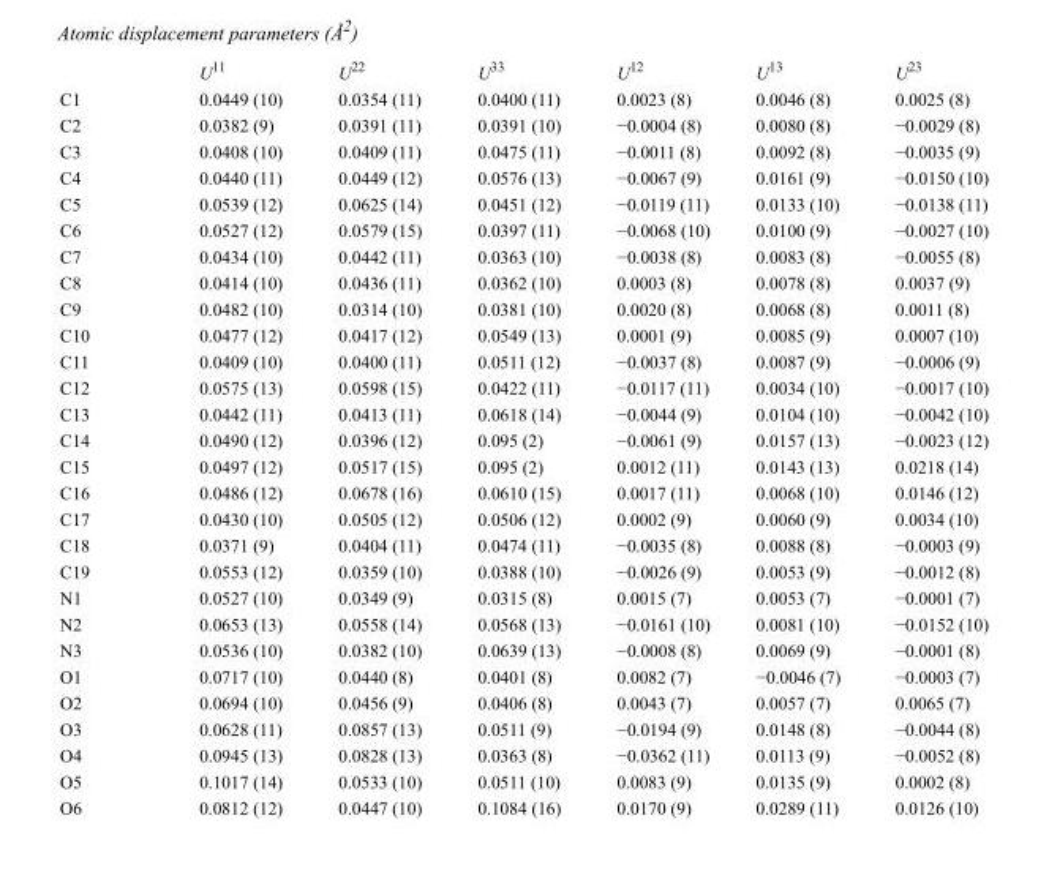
<table><thead><tr><td></td><td>U<sup>11</sup></td><td>U<sup>22</sup></td><td>U<sup>33</sup></td><td>U<sup>12</sup></td><td>U<sup>13</sup></td><td>U<sup>23</sup></td></tr></thead><tbody><tr><td>C1</td><td>0.0449 (10)</td><td>0.0354 (11)</td><td>0.0400 (11)</td><td>0.0023 (8)</td><td>0.0046 (8)</td><td>0.0025 (8)</td></tr><tr><td>C2</td><td>0.0382 (9)</td><td>0.0391 (11)</td><td>0.0391 (10)</td><td>−0.0004 (8)</td><td>0.0080 (8)</td><td>−0.0029 (8)</td></tr><tr><td>C3</td><td>0.0408 (10)</td><td>0.0409 (11)</td><td>0.0475 (11)</td><td>−0.0011 (8)</td><td>0.0092 (8)</td><td>−0.0035 (9)</td></tr><tr><td>C4</td><td>0.0440 (11)</td><td>0.0449 (12)</td><td>0.0576 (13)</td><td>−0.0067 (9)</td><td>0.0161 (9)</td><td>−0.0150 (10)</td></tr><tr><td>C5</td><td>0.0539 (12)</td><td>0.0625 (14)</td><td>0.0451 (12)</td><td>−0.0119 (11)</td><td>0.0133 (10)</td><td>−0.0138 (11)</td></tr><tr><td>C6</td><td>0.0527 (12)</td><td>0.0579 (15)</td><td>0.0397 (11)</td><td>−0.0068 (10)</td><td>0.0100 (9)</td><td>−0.0027 (10)</td></tr><tr><td>C7</td><td>0.0434 (10)</td><td>0.0442 (11)</td><td>0.0363 (10)</td><td>−0.0038 (8)</td><td>0.0083 (8)</td><td>−0.0055 (8)</td></tr><tr><td>C8</td><td>0.0414 (10)</td><td>0.0436 (11)</td><td>0.0362 (10)</td><td>0.0003 (8)</td><td>0.0078 (8)</td><td>0.0037 (9)</td></tr><tr><td>C9</td><td>0.0482 (10)</td><td>0.0314 (10)</td><td>0.0381 (10)</td><td>0.0020 (8)</td><td>0.0068 (8)</td><td>0.0011 (8)</td></tr><tr><td>C10</td><td>0.0477 (12)</td><td>0.0417 (12)</td><td>0.0549 (13)</td><td>0.0001 (9)</td><td>0.0085 (9)</td><td>0.0007 (10)</td></tr><tr><td>C11</td><td>0.0409 (10)</td><td>0.0400 (11)</td><td>0.0511 (12)</td><td>−0.0037 (8)</td><td>0.0087 (9)</td><td>−0.0006 (9)</td></tr><tr><td>C12</td><td>0.0575 (13)</td><td>0.0598 (15)</td><td>0.0422 (11)</td><td>−0.0117 (11)</td><td>0.0034 (10)</td><td>−0.0017 (10)</td></tr><tr><td>C13</td><td>0.0442 (11)</td><td>0.0413 (11)</td><td>0.0618 (14)</td><td>−0.0044 (9)</td><td>0.0104 (10)</td><td>−0.0042 (10)</td></tr><tr><td>C14</td><td>0.0490 (12)</td><td>0.0396 (12)</td><td>0.095 (2)</td><td>−0.0061 (9)</td><td>0.0157 (13)</td><td>−0.0023 (12)</td></tr><tr><td>C15</td><td>0.0497 (12)</td><td>0.0517 (15)</td><td>0.095 (2)</td><td>0.0012 (11)</td><td>0.0143 (13)</td><td>0.0218 (14)</td></tr><tr><td>C16</td><td>0.0486 (12)</td><td>0.0678 (16)</td><td>0.0610 (15)</td><td>0.0017 (11)</td><td>0.0068 (10)</td><td>0.0146 (12)</td></tr><tr><td>C17</td><td>0.0430 (10)</td><td>0.0505 (12)</td><td>0.0506 (12)</td><td>0.0002 (9)</td><td>0.0060 (9)</td><td>0.0034 (10)</td></tr><tr><td>C18</td><td>0.0371 (9)</td><td>0.0404 (11)</td><td>0.0474 (11)</td><td>−0.0035 (8)</td><td>0.0088 (8)</td><td>−0.0003 (9)</td></tr><tr><td>C19</td><td>0.0553 (12)</td><td>0.0359 (10)</td><td>0.0388 (10)</td><td>−0.0026 (9)</td><td>0.0053 (9)</td><td>−0.0012 (8)</td></tr><tr><td>N1</td><td>0.0527 (10)</td><td>0.0349 (9)</td><td>0.0315 (8)</td><td>0.0015 (7)</td><td>0.0053 (7)</td><td>−0.0001 (7)</td></tr><tr><td>N2</td><td>0.0653 (13)</td><td>0.0558 (14)</td><td>0.0568 (13)</td><td>−0.0161 (10)</td><td>0.0081 (10)</td><td>−0.0152 (10)</td></tr><tr><td>N3</td><td>0.0536 (10)</td><td>0.0382 (10)</td><td>0.0639 (13)</td><td>−0.0008 (8)</td><td>0.0069 (9)</td><td>−0.0001 (8)</td></tr><tr><td>O1</td><td>0.0717 (10)</td><td>0.0440 (8)</td><td>0.0401 (8)</td><td>0.0082 (7)</td><td>−0.0046 (7)</td><td>−0.0003 (7)</td></tr><tr><td>O2</td><td>0.0694 (10)</td><td>0.0456 (9)</td><td>0.0406 (8)</td><td>0.0043 (7)</td><td>0.0057 (7)</td><td>0.0065 (7)</td></tr><tr><td>O3</td><td>0.0628 (11)</td><td>0.0857 (13)</td><td>0.0511 (9)</td><td>−0.0194 (9)</td><td>0.0148 (8)</td><td>−0.0044 (8)</td></tr><tr><td>O4</td><td>0.0945 (13)</td><td>0.0828 (13)</td><td>0.0363 (8)</td><td>−0.0362 (11)</td><td>0.0113 (9)</td><td>−0.0052 (8)</td></tr><tr><td>O5</td><td>0.1017 (14)</td><td>0.0533 (10)</td><td>0.0511 (10)</td><td>0.0083 (9)</td><td>0.0135 (9)</td><td>0.0002 (8)</td></tr><tr><td>O6</td><td>0.0812 (12)</td><td>0.0447 (10)</td><td>0.1084 (16)</td><td>0.0170 (9)</td><td>0.0289 (11)</td><td>0.0126 (10)</td></tr></tbody></table>